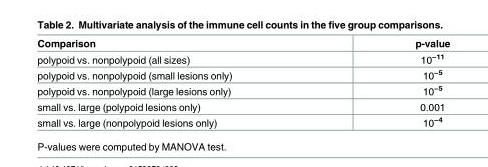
<table><thead><tr><td>Comparison</td><td>p-value</td></tr></thead><tbody><tr><td>polypoid vs. nonpolypoid (all sizes)</td><td>10<sup>−11</sup></td></tr><tr><td>polypoid vs. nonpolypoid (small lesions only)</td><td>10<sup>−5</sup></td></tr><tr><td>polypoid vs. nonpolypoid (large lesions only)</td><td>10<sup>−5</sup></td></tr><tr><td>small vs. large (polypoid lesions only)</td><td>0.001</td></tr><tr><td>small vs. large (nonpolypoid lesions only)</td><td>10<sup>−4</sup></td></tr></tbody></table>